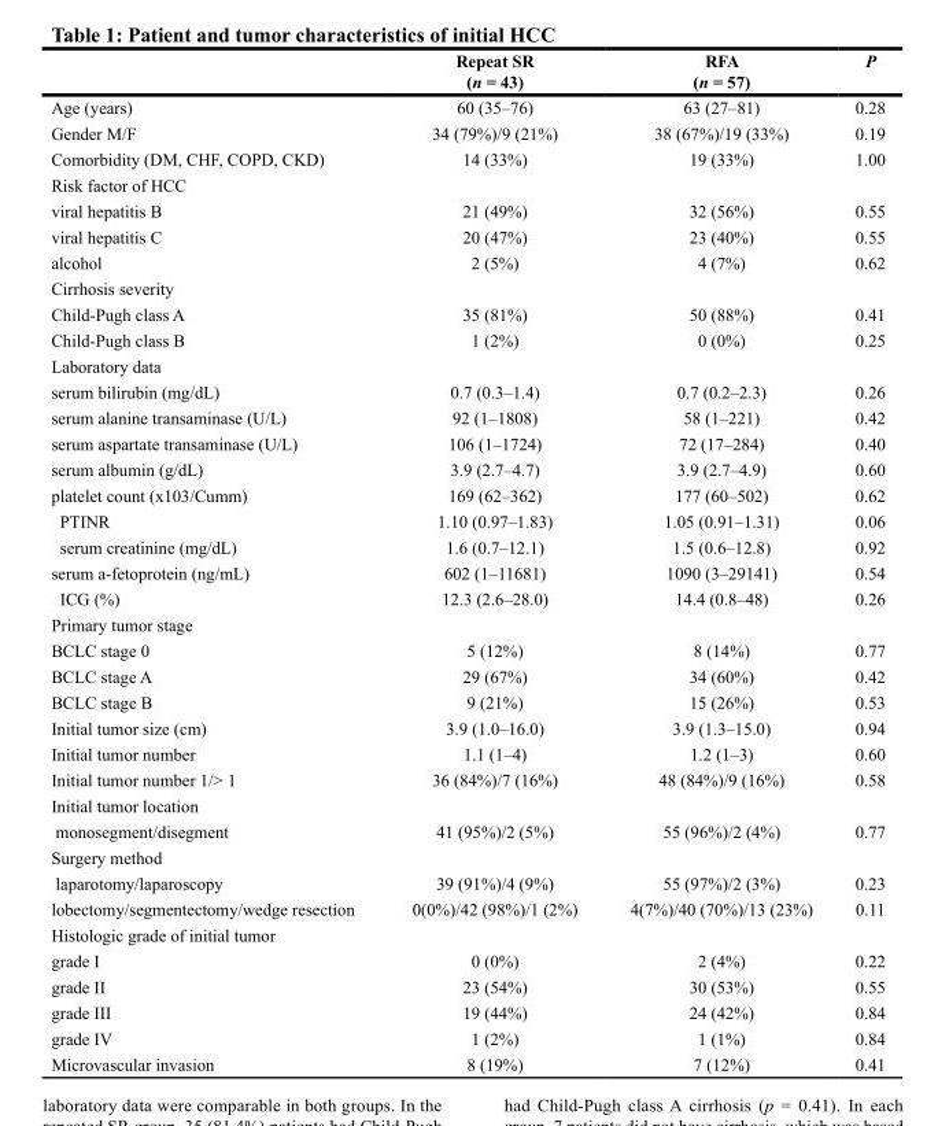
<table><thead><tr><td></td><td>Repeat SR (n = 43)</td><td>RFA (n = 57)</td><td>P</td></tr></thead><tbody><tr><td>Age (years)</td><td>60 (35–76)</td><td>63 (27–81)</td><td>0.28</td></tr><tr><td>Gender M/F</td><td>34 (79%)/9 (21%)</td><td>38 (67%)/19 (33%)</td><td>0.19</td></tr><tr><td>Comorbidity (DM, CHF, COPD, CKD)</td><td>14 (33%)</td><td>19 (33%)</td><td>1.00</td></tr><tr><td colspan="4">Risk factor of HCC</td></tr><tr><td>viral hepatitis B</td><td>21 (49%)</td><td>32 (56%)</td><td>0.55</td></tr><tr><td>viral hepatitis C</td><td>20 (47%)</td><td>23 (40%)</td><td>0.55</td></tr><tr><td>alcohol</td><td>2 (5%)</td><td>4 (7%)</td><td>0.62</td></tr><tr><td colspan="4">Cirrhosis severity</td></tr><tr><td>Child-Pugh class A</td><td>35 (81%)</td><td>50 (88%)</td><td>0.41</td></tr><tr><td>Child-Pugh class B</td><td>1 (2%)</td><td>0 (0%)</td><td>0.25</td></tr><tr><td colspan="4">Laboratory data</td></tr><tr><td>serum bilirubin (mg/dL)</td><td>0.7 (0.3–1.4)</td><td>0.7 (0.2–2.3)</td><td>0.26</td></tr><tr><td>serum alanine transaminase (U/L)</td><td>92 (1–1808)</td><td>58 (1–221)</td><td>0.42</td></tr><tr><td>serum aspartate transaminase (U/L)</td><td>106 (1–1724)</td><td>72 (17–284)</td><td>0.40</td></tr><tr><td>serum albumin (g/dL)</td><td>3.9 (2.7–4.7)</td><td>3.9 (2.7–4.9)</td><td>0.60</td></tr><tr><td>platelet count (x103/Cumm)</td><td>169 (62–362)</td><td>177 (60–502)</td><td>0.62</td></tr><tr><td>PTINR</td><td>1.10 (0.97–1.83)</td><td>1.05 (0.91–1.31)</td><td>0.06</td></tr><tr><td>serum creatinine (mg/dL)</td><td>1.6 (0.7–12.1)</td><td>1.5 (0.6–12.8)</td><td>0.92</td></tr><tr><td>serum a-fetoprotein (ng/mL)</td><td>602 (1–11681)</td><td>1090 (3–29141)</td><td>0.54</td></tr><tr><td>ICG (%)</td><td>12.3 (2.6–28.0)</td><td>14.4 (0.8–48)</td><td>0.26</td></tr><tr><td colspan="4">Primary tumor stage</td></tr><tr><td>BCLC stage 0</td><td>5 (12%)</td><td>8 (14%)</td><td>0.77</td></tr><tr><td>BCLC stage A</td><td>29 (67%)</td><td>34 (60%)</td><td>0.42</td></tr><tr><td>BCLC stage B</td><td>9 (21%)</td><td>15 (26%)</td><td>0.53</td></tr><tr><td>Initial tumor size (cm)</td><td>3.9 (1.0–16.0)</td><td>3.9 (1.3–15.0)</td><td>0.94</td></tr><tr><td>Initial tumor number</td><td>1.1 (1–4)</td><td>1.2 (1–3)</td><td>0.60</td></tr><tr><td>Initial tumor number 1/&gt; 1</td><td>36 (84%)/7 (16%)</td><td>48 (84%)/9 (16%)</td><td>0.58</td></tr><tr><td colspan="4">Initial tumor location</td></tr><tr><td>monosegment/disegment</td><td>41 (95%)/2 (5%)</td><td>55 (96%)/2 (4%)</td><td>0.77</td></tr><tr><td colspan="4">Surgery method</td></tr><tr><td>laparotomy/laparoscopy</td><td>39 (91%)/4 (9%)</td><td>55 (97%)/2 (3%)</td><td>0.23</td></tr><tr><td>lobectomy/segmentectomy/wedge resection</td><td>0(0%)/42 (98%)/1 (2%)</td><td>4(7%)/40 (70%)/13 (23%)</td><td>0.11</td></tr><tr><td colspan="4">Histologic grade of initial tumor</td></tr><tr><td>grade I</td><td>0 (0%)</td><td>2 (4%)</td><td>0.22</td></tr><tr><td>grade II</td><td>23 (54%)</td><td>30 (53%)</td><td>0.55</td></tr><tr><td>grade III</td><td>19 (44%)</td><td>24 (42%)</td><td>0.84</td></tr><tr><td>grade IV</td><td>1 (2%)</td><td>1 (1%)</td><td>0.84</td></tr><tr><td>Microvascular invasion</td><td>8 (19%)</td><td>7 (12%)</td><td>0.41</td></tr></tbody></table>